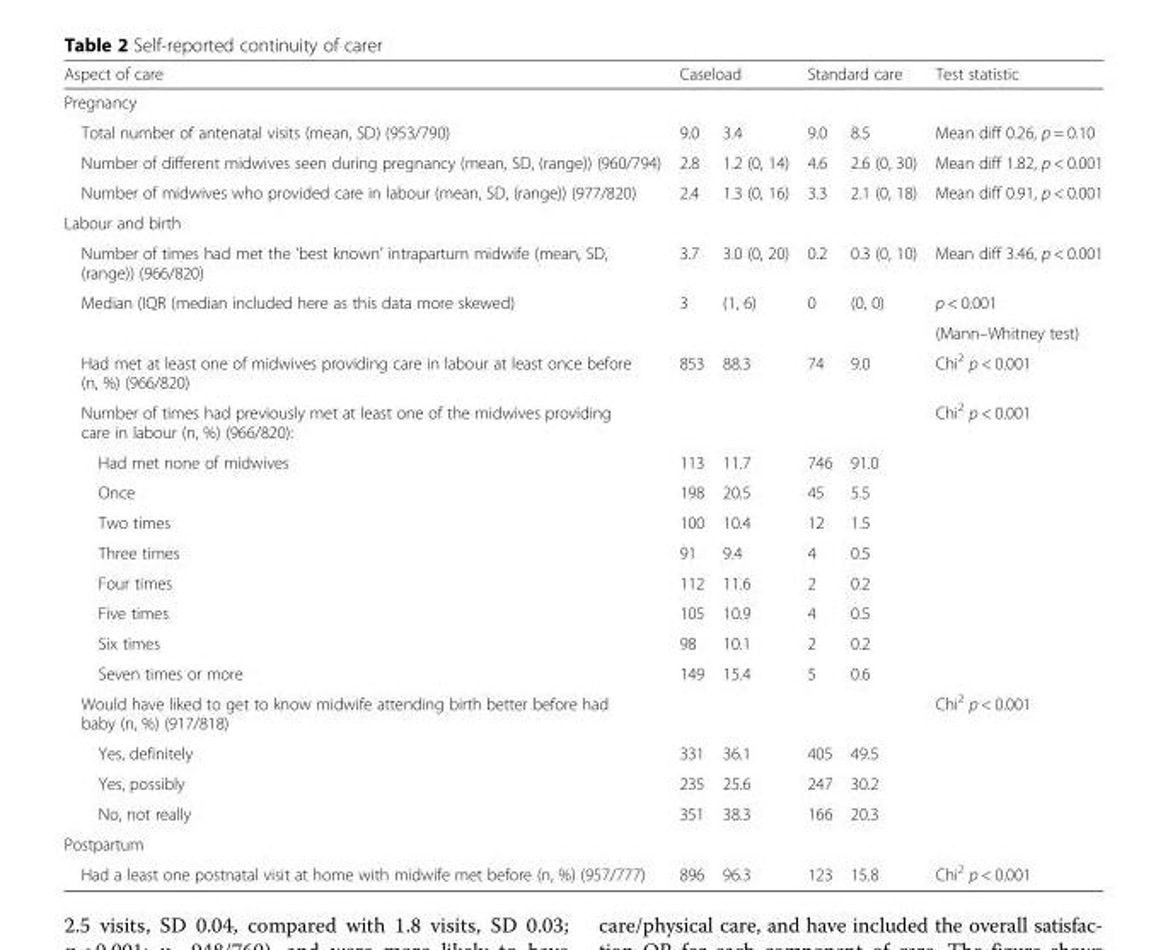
<table><thead><tr><td rowspan="2">Aspect of care Pregnancy</td><td colspan="2">Caseload</td><td colspan="2">Standard care</td><td rowspan="2">Test statistic</td></tr><tr><td></td><td></td><td></td><td></td></tr></thead><tbody><tr><td>Total number of antenatal visits (mean, SD) (953/790)</td><td>9.0</td><td>3.4</td><td>9.0</td><td>8.5</td><td>Mean diff 0.26, p = 0.10</td></tr><tr><td>Number of different midwives seen during pregnancy (mean, SD, (range)) (960/794)</td><td>2.8</td><td>1.2 (0, 14)</td><td>4.6</td><td>2.6 (0, 30)</td><td>Mean diff 1.82, p &lt; 0.001</td></tr><tr><td>Number of midwives who provided care in labour (mean, SD, (range)) (977/820)</td><td>2.4</td><td>1.3 (0, 16)</td><td>3.3</td><td>2.1 (0, 18)</td><td>Mean diff 0.91, p &lt; 0.001</td></tr><tr><td colspan="6">Labour and birth</td></tr><tr><td>Number of times had met the ‘best known’ intrapartum midwife (mean, SD, (range)) (966/820)</td><td>3.7</td><td>3.0 (0, 20)</td><td>0.2</td><td>0.3 (0, 10)</td><td>Mean diff 3.46, p &lt; 0.001</td></tr><tr><td rowspan="2">Median (IQR (median included here as this data more skewed)</td><td rowspan="2">3</td><td rowspan="2">(1, 6)</td><td rowspan="2">0</td><td rowspan="2">(0, 0)</td><td>p &lt; 0.001</td></tr><tr><td>(Mann–Whitney test)</td></tr><tr><td>Had met at least one of midwives providing care in labour at least once before (n, %) (966/820)</td><td>853</td><td>88.3</td><td>74</td><td>9.0</td><td>Chi<sup>2</sup> p &lt; 0.001</td></tr><tr><td>Number of times had previously met at least one of the midwives providing care in labour (n, %) (966/820):</td><td></td><td></td><td></td><td></td><td>Chi<sup>2</sup> p &lt; 0.001</td></tr><tr><td>Had met none of midwives</td><td>113</td><td>11.7</td><td>746</td><td>91.0</td><td></td></tr><tr><td>Once</td><td>198</td><td>20.5</td><td>45</td><td>5.5</td><td></td></tr><tr><td>Two times</td><td>100</td><td>10.4</td><td>12</td><td>1.5</td><td></td></tr><tr><td>Three times</td><td>91</td><td>9.4</td><td>4</td><td>0.5</td><td></td></tr><tr><td>Four times</td><td>112</td><td>11.6</td><td>2</td><td>0.2</td><td></td></tr><tr><td>Five times</td><td>105</td><td>10.9</td><td>4</td><td>0.5</td><td></td></tr><tr><td>Six times</td><td>98</td><td>10.1</td><td>2</td><td>0.2</td><td></td></tr><tr><td>Seven times or more</td><td>149</td><td>15.4</td><td>5</td><td>0.6</td><td></td></tr><tr><td>Would have liked to get to know midwife attending birth better before had baby (n, %) (917/818)</td><td></td><td></td><td></td><td></td><td>Chi<sup>2</sup> p &lt; 0.001</td></tr><tr><td>Yes, definitely</td><td>331</td><td>36.1</td><td>405</td><td>49.5</td><td></td></tr><tr><td>Yes, possibly</td><td>235</td><td>25.6</td><td>247</td><td>30.2</td><td></td></tr><tr><td>No, not really</td><td>351</td><td>38.3</td><td>166</td><td>20.3</td><td></td></tr><tr><td colspan="6">Postpartum</td></tr><tr><td>Had a least one postnatal visit at home with midwife met before (n, %) (957/777)</td><td>896</td><td>96.3</td><td>123</td><td>15.8</td><td>Chi<sup>2</sup> p &lt; 0.001</td></tr></tbody></table>